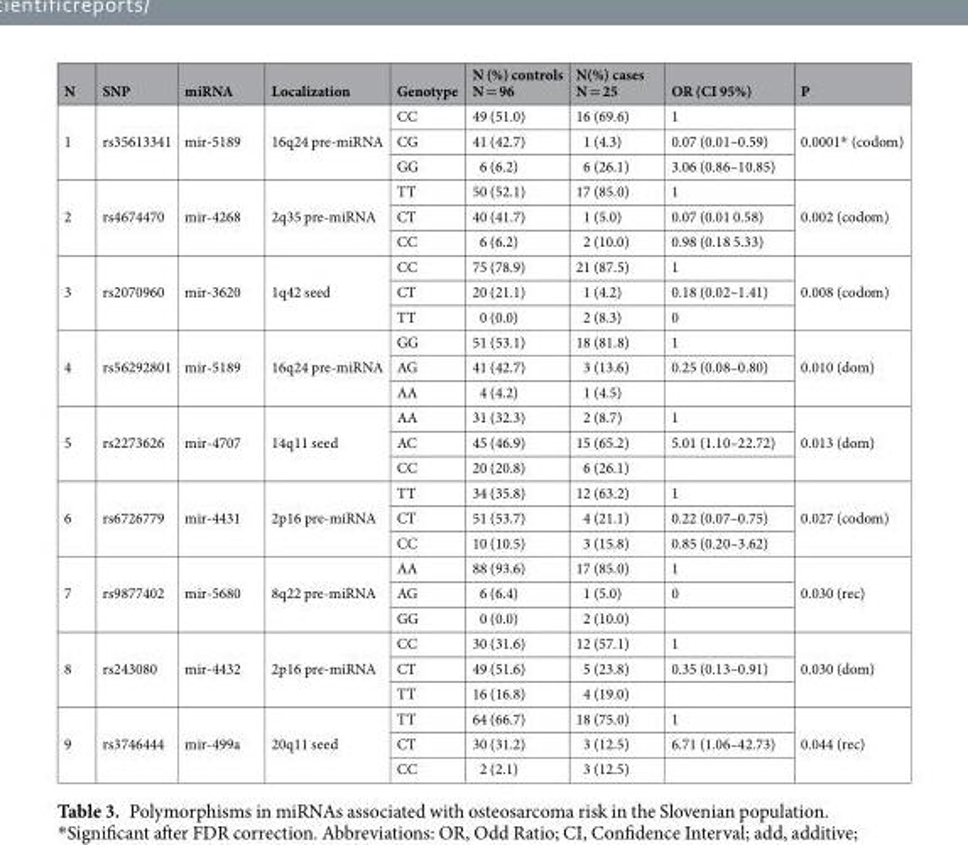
<table><thead><tr><td>N</td><td>SNP</td><td>miRNA</td><td>Localization</td><td>Genotype</td><td>N (%) controls N = 96</td><td>N(%) cases N = 25</td><td>OR (CI 95%)</td><td>P</td></tr></thead><tbody><tr><td rowspan="3">1</td><td rowspan="3">rs35613341</td><td rowspan="3">mir-5189</td><td rowspan="3">16q24 pre-miRNA</td><td>CC</td><td>49 (51.0)</td><td>16 (69.6)</td><td>1</td><td rowspan="3">0.0001* (codom)</td></tr><tr><td>CG</td><td>41 (42.7)</td><td>1 (4.3)</td><td>0.07 (0.01–0.59)</td></tr><tr><td>GG</td><td>6 (6.2)</td><td>6 (26.1)</td><td>3.06 (0.86–10.85)</td></tr><tr><td rowspan="3">2</td><td rowspan="3">rs4674470</td><td rowspan="3">mir-4268</td><td rowspan="3">2q35 pre-miRNA</td><td>TT</td><td>50 (52.1)</td><td>17 (85.0)</td><td>1</td><td rowspan="3">0.002 (codom)</td></tr><tr><td>CT</td><td>40 (41.7)</td><td>1 (5.0)</td><td>0.07 (0.01 0.58)</td></tr><tr><td>CC</td><td>6 (6.2)</td><td>2 (10.0)</td><td>0.98 (0.18 5.33)</td></tr><tr><td rowspan="3">3</td><td rowspan="3">rs2070960</td><td rowspan="3">mir-3620</td><td rowspan="3">1q42 seed</td><td>CC</td><td>75 (78.9)</td><td>21 (87.5)</td><td>1</td><td rowspan="3">0.008 (codom)</td></tr><tr><td>CT</td><td>20 (21.1)</td><td>1 (4.2)</td><td>0.18 (0.02–1.41)</td></tr><tr><td>TT</td><td>0 (0.0)</td><td>2 (8.3)</td><td>0</td></tr><tr><td rowspan="3">4</td><td rowspan="3">rs56292801</td><td rowspan="3">mir-5189</td><td rowspan="3">16q24 pre-miRNA</td><td>GG</td><td>51 (53.1)</td><td>18 (81.8)</td><td>1</td><td rowspan="3">0.010 (dom)</td></tr><tr><td>AG</td><td>41 (42.7)</td><td>3 (13.6)</td><td>0.25 (0.08–0.80)</td></tr><tr><td>AA</td><td>4 (4.2)</td><td>1 (4.5)</td><td></td></tr><tr><td rowspan="3">5</td><td rowspan="3">rs2273626</td><td rowspan="3">mir-4707</td><td rowspan="3">14q11 seed</td><td>AA</td><td>31 (32.3)</td><td>2 (8.7)</td><td>1</td><td rowspan="3">0.013 (dom)</td></tr><tr><td>AC</td><td>45 (46.9)</td><td>15 (65.2)</td><td>5.01 (1.10–22.72)</td></tr><tr><td>CC</td><td>20 (20.8)</td><td>6 (26.1)</td><td></td></tr><tr><td rowspan="3">6</td><td rowspan="3">rs6726779</td><td rowspan="3">mir-4431</td><td rowspan="3">2p16 pre-miRNA</td><td>TT</td><td>34 (35.8)</td><td>12 (63.2)</td><td>1</td><td rowspan="3">0.027 (codom)</td></tr><tr><td>CT</td><td>51 (53.7)</td><td>4 (21.1)</td><td>0.22 (0.07–0.75)</td></tr><tr><td>CC</td><td>10 (10.5)</td><td>3 (15.8)</td><td>0.85 (0.20–3.62)</td></tr><tr><td rowspan="3">7</td><td rowspan="3">rs9877402</td><td rowspan="3">mir-5680</td><td rowspan="3">8q22 pre-miRNA</td><td>AA</td><td>88 (93.6)</td><td>17 (85.0)</td><td>1</td><td rowspan="3">0.030 (rec)</td></tr><tr><td>AG</td><td>6 (6.4)</td><td>1 (5.0)</td><td>0</td></tr><tr><td>GG</td><td>0 (0.0)</td><td>2 (10.0)</td><td></td></tr><tr><td rowspan="3">8</td><td rowspan="3">rs243080</td><td rowspan="3">mir-4432</td><td rowspan="3">2p16 pre-miRNA</td><td>CC</td><td>30 (31.6)</td><td>12 (57.1)</td><td>1</td><td rowspan="3">0.030 (dom)</td></tr><tr><td>CT</td><td>49 (51.6)</td><td>5 (23.8)</td><td>0.35 (0.13–0.91)</td></tr><tr><td>TT</td><td>16 (16.8)</td><td>4 (19.0)</td><td></td></tr><tr><td rowspan="3">9</td><td rowspan="3">rs3746444</td><td rowspan="3">mir-499a</td><td rowspan="3">20q11 seed</td><td>TT</td><td>64 (66.7)</td><td>18 (75.0)</td><td>1</td><td rowspan="3">0.044 (rec)</td></tr><tr><td>CT</td><td>30 (31.2)</td><td>3 (12.5)</td><td>6.71 (1.06–42.73)</td></tr><tr><td>CC</td><td>2 (2.1)</td><td>3 (12.5)</td><td></td></tr></tbody></table>